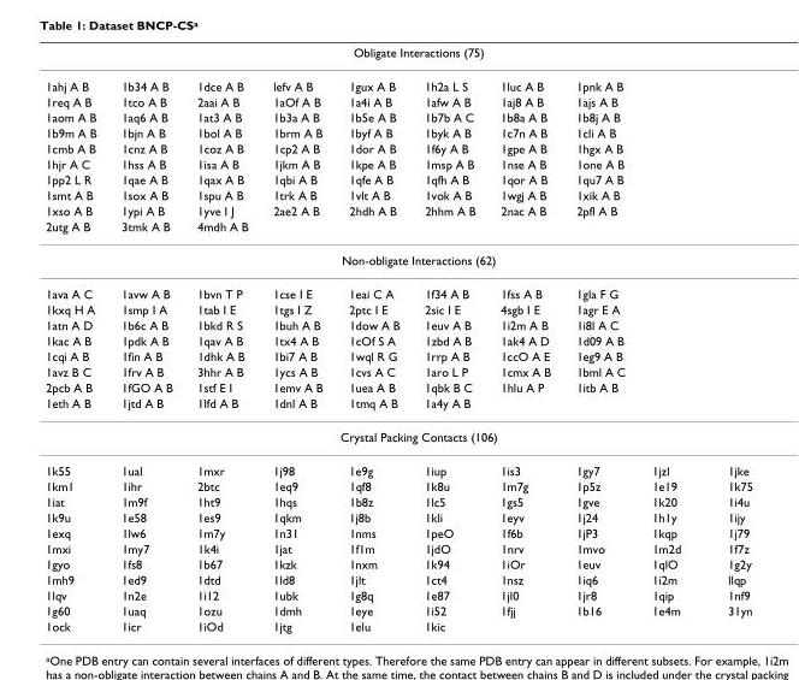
<table><thead><tr><td colspan="10">Obligate Interactions (75)</td></tr><tr><td>1ahj A B</td><td>1b34 A B</td><td>1dce A B</td><td>lefv A B</td><td>1gux A B</td><td>1h2a L S</td><td>1luc A B</td><td>1pnk A B</td><td></td><td></td></tr></thead><tbody><tr><td>1req A B</td><td>1tco A B</td><td>2aai A B</td><td>1aOf A B</td><td>1a4i A B</td><td>1afw A B</td><td>1aj8 A B</td><td>1ajs A B</td><td></td><td></td></tr><tr><td>1aom A B</td><td>1aq6 A B</td><td>1at3 A B</td><td>1b3a A B</td><td>1b5e A B</td><td>1b7b A C</td><td>1b8a A B</td><td>1b8j A B</td><td></td><td></td></tr><tr><td>1b9m A B</td><td>1bjn A B</td><td>1bol A B</td><td>1brm A B</td><td>1byf A B</td><td>1byk A B</td><td>1c7n A B</td><td>1cli A B</td><td></td><td></td></tr><tr><td>1cmb A B</td><td>1cnz A B</td><td>1coz A B</td><td>1cp2 A B</td><td>1dor A B</td><td>1f6y A B</td><td>1gpe A B</td><td>1hgx A B</td><td></td><td></td></tr><tr><td>1hjr A C</td><td>1hss A B</td><td>1isa A B</td><td>1jkm A B</td><td>1kpe A B</td><td>1msp A B</td><td>1nse A B</td><td>1one A B</td><td></td><td></td></tr><tr><td>1pp2 L R</td><td>1qae A B</td><td>1qax A B</td><td>1qbi A B</td><td>1qfe A B</td><td>1qfh A B</td><td>1qor A B</td><td>1qu7 A B</td><td></td><td></td></tr><tr><td>1smt A B</td><td>1sox A B</td><td>1spu A B</td><td>1trk A B</td><td>1vlt A B</td><td>1vok A B</td><td>1wgj A B</td><td>1xik A B</td><td></td><td></td></tr><tr><td>1xso A B</td><td>1ypi A B</td><td>1yve I J</td><td>2ae2 A B</td><td>2hdh A B</td><td>2hhm A B</td><td>2nac A B</td><td>2pfl A B</td><td></td><td></td></tr><tr><td>2utg A B</td><td>3tmk A B</td><td>4mdh A B</td><td></td><td></td><td></td><td></td><td></td><td></td><td></td></tr><tr><td colspan="10">Non-obligate Interactions (62)</td></tr><tr><td>1ava A C</td><td>1avw A B</td><td>1bvn T P</td><td>1cse I E</td><td>1eai C A</td><td>1f34 A B</td><td>1fss A B</td><td>1gla F G</td><td></td><td></td></tr><tr><td>1kxq H A</td><td>1smp I A</td><td>1tab I E</td><td>1tgs I Z</td><td>2ptc I E</td><td>2sic I E</td><td>4sgb I E</td><td>1agr E A</td><td></td><td></td></tr><tr><td>1atn A D</td><td>1b6c A B</td><td>1bkd R S</td><td>1buh A B</td><td>1dow A B</td><td>1euv A B</td><td>1i2m A B</td><td>1i8l A C</td><td></td><td></td></tr><tr><td>1kac A B</td><td>1pdk A B</td><td>1qav A B</td><td>1tx4 A B</td><td>1cOf S A</td><td>1zbd A B</td><td>1ak4 A D</td><td>1d09 A B</td><td></td><td></td></tr><tr><td>1cqi A B</td><td>1fin A B</td><td>1dhk A B</td><td>1bi7 A B</td><td>1wql R G</td><td>1rrp A B</td><td>1ccO A E</td><td>1eg9 A B</td><td></td><td></td></tr><tr><td>1avz B C</td><td>1frv A B</td><td>3hhr A B</td><td>1ycs A B</td><td>1cvs A C</td><td>1aro L P</td><td>1cmx A B</td><td>1bml A C</td><td></td><td></td></tr><tr><td>2pcb A B</td><td>1fGO A B</td><td>1stf E I</td><td>1emv A B</td><td>1uea A B</td><td>1qbk B C</td><td>1hlu A P</td><td>1itb A B</td><td></td><td></td></tr><tr><td>1eth A B</td><td>1jtd A B</td><td>1lfd A B</td><td>1dnl A B</td><td>1tmq A B</td><td>1a4y A B</td><td></td><td></td><td></td><td></td></tr><tr><td colspan="10">Crystal Packing Contacts (106)</td></tr><tr><td>1k55</td><td>1ual</td><td>1mxr</td><td>1j98</td><td>1e9g</td><td>1iup</td><td>1is3</td><td>1gy7</td><td>1jzl</td><td>1jke</td></tr><tr><td>1km1</td><td>1ihr</td><td>2btc</td><td>1eq9</td><td>1qf8</td><td>1k8u</td><td>1m7g</td><td>1p5z</td><td>1e19</td><td>1k75</td></tr><tr><td>1iat</td><td>1m9f</td><td>1ht9</td><td>1hqs</td><td>1b8z</td><td>1lc5</td><td>1gs5</td><td>1gve</td><td>1k20</td><td>1i4u</td></tr><tr><td>1k9u</td><td>1e58</td><td>1es9</td><td>1qkm</td><td>1j8b</td><td>1kli</td><td>1eyv</td><td>1j24</td><td>1h1y</td><td>1ijy</td></tr><tr><td>1exq</td><td>1lw6</td><td>1m7y</td><td>1n31</td><td>1nms</td><td>1peO</td><td>1f6b</td><td>1jP3</td><td>1kqp</td><td>1j79</td></tr><tr><td>1mxi</td><td>1my7</td><td>1k4i</td><td>1jat</td><td>1f1m</td><td>1jdO</td><td>1nrv</td><td>1mvo</td><td>1m2d</td><td>1f7z</td></tr><tr><td>1gyo</td><td>1fs8</td><td>1b67</td><td>1kzk</td><td>1nxm</td><td>1k94</td><td>1iOr</td><td>1euv</td><td>1qlO</td><td>1g2y</td></tr><tr><td>1mh9</td><td>1ed9</td><td>1dtd</td><td>1ld8</td><td>1jlt</td><td>1ct4</td><td>1nsz</td><td>1iq6</td><td>1i2m</td><td>llqp</td></tr><tr><td>1lqv</td><td>1n2e</td><td>1i12</td><td>1ubk</td><td>1g8q</td><td>1e87</td><td>1jl0</td><td>1jr8</td><td>1qip</td><td>1nf9</td></tr><tr><td>1g60</td><td>1uaq</td><td>1ozu</td><td>1dmh</td><td>1eye</td><td>1i52</td><td>1fjj</td><td>1b16</td><td>1e4m</td><td>31yn</td></tr><tr><td>1ock</td><td>1icr</td><td>1iOd</td><td>1jtg</td><td>1elu</td><td>1kic</td><td></td><td></td><td></td><td></td></tr></tbody></table>